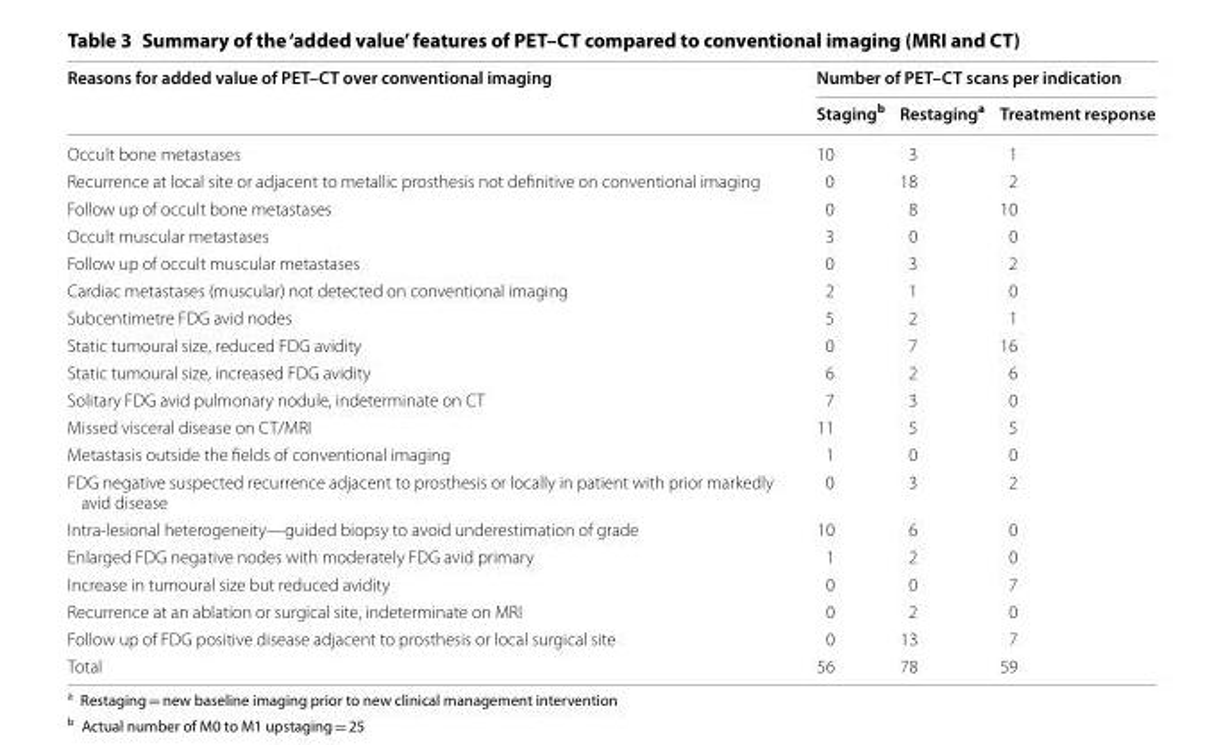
<table><thead><tr><td rowspan="2">Reasons for added value of PET–CT over conventional imaging</td><td colspan="3">Number of PET–CT scans per indication</td></tr><tr><td>Staging<sup>b</sup></td><td>Restaging<sup>a</sup></td><td>Treatment response</td></tr></thead><tbody><tr><td>Occult bone metastases</td><td>10</td><td>3</td><td>1</td></tr><tr><td>Recurrence at local site or adjacent to metallic prosthesis not definitive on conventional imaging</td><td>0</td><td>18</td><td>2</td></tr><tr><td>Follow up of occult bone metastases</td><td>0</td><td>8</td><td>10</td></tr><tr><td>Occult muscular metastases</td><td>3</td><td>0</td><td>0</td></tr><tr><td>Follow up of occult muscular metastases</td><td>0</td><td>3</td><td>2</td></tr><tr><td>Cardiac metastases (muscular) not detected on conventional imaging</td><td>2</td><td>1</td><td>0</td></tr><tr><td>Subcentimetre FDG avid nodes</td><td>5</td><td>2</td><td>1</td></tr><tr><td>Static tumoural size, reduced FDG avidity</td><td>0</td><td>7</td><td>16</td></tr><tr><td>Static tumoural size, increased FDG avidity</td><td>6</td><td>2</td><td>6</td></tr><tr><td>Solitary FDG avid pulmonary nodule, indeterminate on CT</td><td>7</td><td>3</td><td>0</td></tr><tr><td>Missed visceral disease on CT/MRI</td><td>11</td><td>5</td><td>5</td></tr><tr><td>Metastasis outside the fields of conventional imaging</td><td>1</td><td>0</td><td>0</td></tr><tr><td>FDG negative suspected recurrence adjacent to prosthesis or locally in patient with prior markedly avid disease</td><td>0</td><td>3</td><td>2</td></tr><tr><td>Intra-lesional heterogeneity—guided biopsy to avoid underestimation of grade</td><td>10</td><td>6</td><td>0</td></tr><tr><td>Enlarged FDG negative nodes with moderately FDG avid primary</td><td>1</td><td>2</td><td>0</td></tr><tr><td>Increase in tumoural size but reduced avidity</td><td>0</td><td>0</td><td>7</td></tr><tr><td>Recurrence at an ablation or surgical site, indeterminate on MRI</td><td>0</td><td>2</td><td>0</td></tr><tr><td>Follow up of FDG positive disease adjacent to prosthesis or local surgical site</td><td>0</td><td>13</td><td>7</td></tr><tr><td>Total</td><td>56</td><td>78</td><td>59</td></tr></tbody></table>